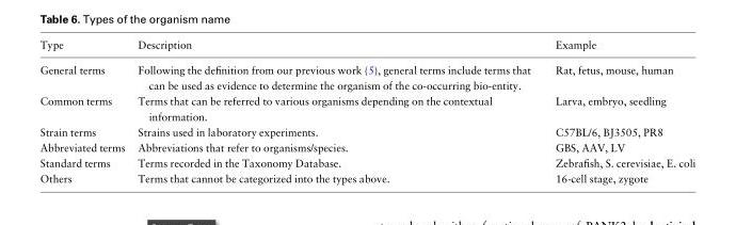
<table><thead><tr><td>Type</td><td>Description</td><td>Example</td></tr></thead><tbody><tr><td>General terms</td><td>Following the definition from our previous work (5), general terms include terms that can be used as evidence to determine the organism of the co-occurring bio-entity.</td><td>Rat, fetus, mouse, human</td></tr><tr><td>Common terms</td><td>Terms that can be referred to various organisms depending on the contextual information.</td><td>Larva, embryo, seedling</td></tr><tr><td>Strain terms</td><td>Strains used in laboratory experiments.</td><td>C57BL/6, BJ3505, PR8</td></tr><tr><td>Abbreviated terms</td><td>Abbreviations that refer to organisms/species.</td><td>GBS, AAV, LV</td></tr><tr><td>Standard terms</td><td>Terms recorded in the Taxonomy Database.</td><td>Zebrafish, S. cerevisiae, E. coli</td></tr><tr><td>Others</td><td>Terms that cannot be categorized into the types above.</td><td>16-cell stage, zygote</td></tr></tbody></table>